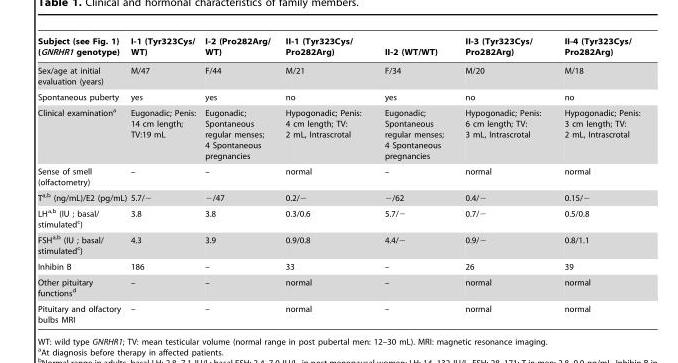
<table><thead><tr><td>Subject (see Fig. 1) (GNRHR1 genotype)</td><td>I-1 (Tyr323Cys/ WT)</td><td>I-2 (Pro282Arg/ WT)</td><td>II-1 (Tyr323Cys/ Pro282Arg)</td><td>II-2 (WT/WT)</td><td>II-3 (Tyr323Cys/ Pro282Arg)</td><td>II-4 (Tyr323Cys/ Pro282Arg)</td></tr></thead><tbody><tr><td>Sex/age at initial evaluation (years)</td><td>M/47</td><td>F/44</td><td>M/21</td><td>F/34</td><td>M/20</td><td>M/18</td></tr><tr><td>Spontaneous puberty</td><td>yes</td><td>yes</td><td>no</td><td>yes</td><td>no</td><td>no</td></tr><tr><td>Clinical examination<sup>a</sup></td><td>Eugonadic; Penis: 14 cm length; TV:19 mL</td><td>Eugonadic; Spontaneous regular menses; 4 Spontaneous pregnancies</td><td>Hypogonadic; Penis: 4 cm length; TV: 2 mL, Intrascrotal</td><td>Eugonadic; Spontaneous regular menses; 4 Spontaneous pregnancies</td><td>Hypogonadic; Penis: 6 cm length; TV: 3 mL, Intrascrotal</td><td>Hypogonadic; Penis: 3 cm length; TV: 2 mL, Intrascrotal</td></tr><tr><td>Sense of smell (olfactometry)</td><td>–</td><td>–</td><td>normal</td><td>–</td><td>normal</td><td>normal</td></tr><tr><td>Ta,b (ng/mL)/E2 (pg/mL)</td><td>5.7/−</td><td>−/47</td><td>0.2/−</td><td>−/62</td><td>0.4/−</td><td>0.15/−</td></tr><tr><td>LHa,b (IU ; basal/ stimulated<sup>c</sup>)</td><td>3.8</td><td>3.8</td><td>0.3/0.6</td><td>5.7/−</td><td>0.7/−</td><td>0.5/0.8</td></tr><tr><td>FSHa,b (IU ; basal/ stimulated<sup>c</sup>)</td><td>4.3</td><td>3.9</td><td>0.9/0.8</td><td>4.4/−</td><td>0.9/−</td><td>0.8/1.1</td></tr><tr><td>Inhibin B</td><td>186</td><td>–</td><td>33</td><td>–</td><td>26</td><td>39</td></tr><tr><td>Other pituitary functions<sup>d</sup></td><td>–</td><td>–</td><td>normal</td><td>–</td><td>normal</td><td>normal</td></tr><tr><td>Pituitary and olfactory bulbs MRI</td><td>–</td><td>–</td><td>normal</td><td>–</td><td>normal</td><td>normal</td></tr></tbody></table>